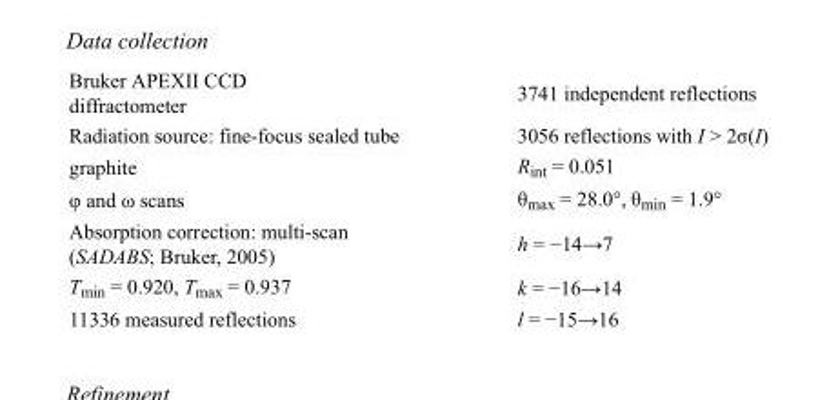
<table><tbody><tr><td>Bruker APEXII CCD diffractometer</td><td>3741 independent reflections</td></tr><tr><td>Radiation source: fine-focus sealed tube</td><td>3056 reflections with I &gt; 2σ(I)</td></tr><tr><td>graphite</td><td>R<sub>int</sub> = 0.051</td></tr><tr><td>φ and ω scans</td><td>θ<sub>max</sub> = 28.0°, θ<sub>min</sub> = 1.9°</td></tr><tr><td>Absorption correction: multi-scan (SADABS; Bruker, 2005)</td><td>h = −14→7</td></tr><tr><td>T<sub>min</sub> = 0.920, T<sub>max</sub> = 0.937</td><td>k = −16→14</td></tr><tr><td>11336 measured reflections</td><td>l = −15→16</td></tr></tbody></table>